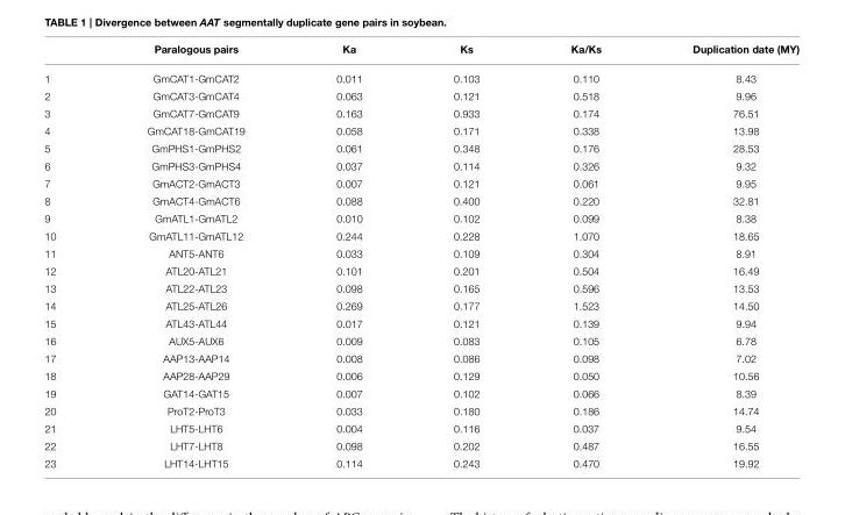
<table><thead><tr><td></td><td>Paralogous pairs</td><td>Ka</td><td>Ks</td><td>Ka/Ks</td><td>Duplication date (MY)</td></tr></thead><tbody><tr><td>1</td><td>GmCAT1-GmCAT2</td><td>0.011</td><td>0.103</td><td>0.110</td><td>8.43</td></tr><tr><td>2</td><td>GmCAT3-GmCAT4</td><td>0.063</td><td>0.121</td><td>0.518</td><td>9.96</td></tr><tr><td>3</td><td>GmCAT7-GmCAT9</td><td>0.163</td><td>0.933</td><td>0.174</td><td>76.51</td></tr><tr><td>4</td><td>GmCAT18-GmCAT19</td><td>0.058</td><td>0.171</td><td>0.338</td><td>13.98</td></tr><tr><td>5</td><td>GmPHS1-GmPHS2</td><td>0.061</td><td>0.348</td><td>0.176</td><td>28.53</td></tr><tr><td>6</td><td>GmPHS3-GmPHS4</td><td>0.037</td><td>0.114</td><td>0.326</td><td>9.32</td></tr><tr><td>7</td><td>GmACT2-GmACT3</td><td>0.007</td><td>0.121</td><td>0.061</td><td>9.95</td></tr><tr><td>8</td><td>GmACT4-GmACT6</td><td>0.088</td><td>0.400</td><td>0.220</td><td>32.81</td></tr><tr><td>9</td><td>GmATL1-GmATL2</td><td>0.010</td><td>0.102</td><td>0.099</td><td>8.38</td></tr><tr><td>10</td><td>GmATL11-GmATL12</td><td>0.244</td><td>0.228</td><td>1.070</td><td>18.65</td></tr><tr><td>11</td><td>ANT5-ANT6</td><td>0.033</td><td>0.109</td><td>0.304</td><td>8.91</td></tr><tr><td>12</td><td>ATL20-ATL21</td><td>0.101</td><td>0.201</td><td>0.504</td><td>16.49</td></tr><tr><td>13</td><td>ATL22-ATL23</td><td>0.098</td><td>0.165</td><td>0.596</td><td>13.53</td></tr><tr><td>14</td><td>ATL25-ATL26</td><td>0.269</td><td>0.177</td><td>1.523</td><td>14.50</td></tr><tr><td>15</td><td>ATL43-ATL44</td><td>0.017</td><td>0.121</td><td>0.139</td><td>9.94</td></tr><tr><td>16</td><td>AUX5-AUX6</td><td>0.009</td><td>0.083</td><td>0.105</td><td>6.78</td></tr><tr><td>17</td><td>AAP13-AAP14</td><td>0.008</td><td>0.086</td><td>0.098</td><td>7.02</td></tr><tr><td>18</td><td>AAP28-AAP29</td><td>0.006</td><td>0.129</td><td>0.050</td><td>10.56</td></tr><tr><td>19</td><td>GAT14-GAT15</td><td>0.007</td><td>0.102</td><td>0.066</td><td>8.39</td></tr><tr><td>20</td><td>ProT2-ProT3</td><td>0.033</td><td>0.180</td><td>0.186</td><td>14.74</td></tr><tr><td>21</td><td>LHT5-LHT6</td><td>0.004</td><td>0.116</td><td>0.037</td><td>9.54</td></tr><tr><td>22</td><td>LHT7-LHT8</td><td>0.098</td><td>0.202</td><td>0.487</td><td>16.55</td></tr><tr><td>23</td><td>LHT14-LHT15</td><td>0.114</td><td>0.243</td><td>0.470</td><td>19.92</td></tr></tbody></table>